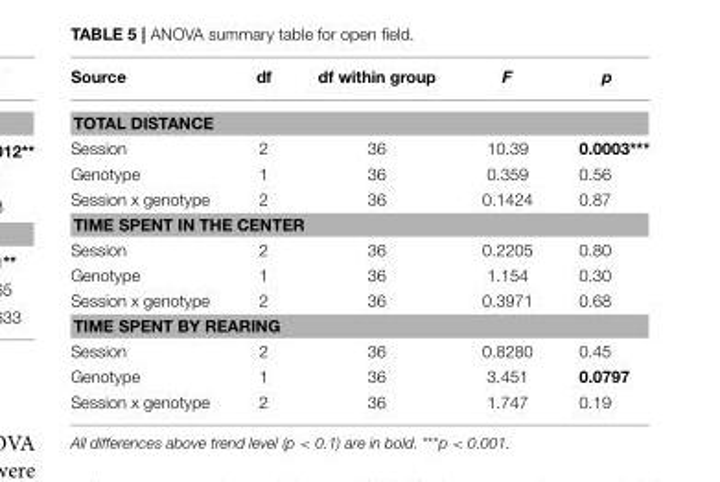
<table><thead><tr><td>Source</td><td>df</td><td>df within group</td><td>F</td><td>p</td></tr></thead><tbody><tr><td colspan="5">TOTAL DISTANCE</td></tr><tr><td>Session</td><td>2</td><td>36</td><td>10.39</td><td>0.0003***</td></tr><tr><td>Genotype</td><td>1</td><td>36</td><td>0.359</td><td>0.56</td></tr><tr><td>Session x genotype</td><td>2</td><td>36</td><td>0.1424</td><td>0.87</td></tr><tr><td colspan="5">TIME SPENT IN THE CENTER</td></tr><tr><td>Session</td><td>2</td><td>36</td><td>0.2205</td><td>0.80</td></tr><tr><td>Genotype</td><td>1</td><td>36</td><td>1.154</td><td>0.30</td></tr><tr><td>Session x genotype</td><td>2</td><td>36</td><td>0.3971</td><td>0.68</td></tr><tr><td colspan="5">TIME SPENT BY REARING</td></tr><tr><td>Session</td><td>2</td><td>36</td><td>0.8280</td><td>0.45</td></tr><tr><td>Genotype</td><td>1</td><td>36</td><td>3.451</td><td>0.0797</td></tr><tr><td>Session x genotype</td><td>2</td><td>36</td><td>1.747</td><td>0.19</td></tr></tbody></table>